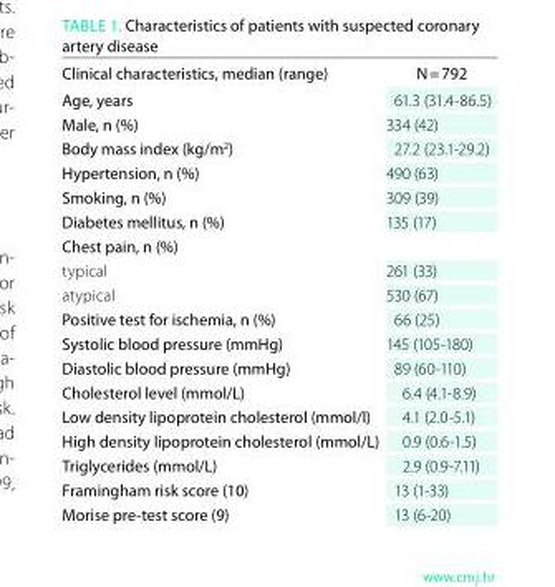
<table><thead><tr><td>Clinical characteristics, median (range)</td><td>n = 792</td></tr></thead><tbody><tr><td>age, years</td><td>61.3 (31.4-86.5)</td></tr><tr><td>Male, n (%)</td><td>334 (42)</td></tr><tr><td>Body mass index (kg/m<sup>2</sup>)</td><td>27.2 (23.1-29.2)</td></tr><tr><td>Hypertension, n (%)</td><td>490 (63)</td></tr><tr><td>smoking, n (%)</td><td>309 (39)</td></tr><tr><td>Diabetes mellitus, n (%)</td><td>135 (17)</td></tr><tr><td colspan="2">Chest pain, n (%)</td></tr><tr><td>typical</td><td>261 (33)</td></tr><tr><td>atypical</td><td>530 (67)</td></tr><tr><td>Positive test for ischemia, n (%)</td><td>66 (25)</td></tr><tr><td>systolic blood pressure (mmHg)</td><td>145 (105-180)</td></tr><tr><td>Diastolic blood pressure (mmHg)</td><td>89 (60-110)</td></tr><tr><td>Cholesterol level (mmol/L)</td><td>6.4 (4.1-8.9)</td></tr><tr><td>Low density lipoprotein cholesterol (mmol/l)</td><td>4.1 (2.0-5.1)</td></tr><tr><td>High density lipoprotein cholesterol (mmol/L)</td><td>0.9 (0.6-1.5)</td></tr><tr><td>triglycerides (mmol/L)</td><td>2.9 (0.9-7.11)</td></tr><tr><td>Framingham risk score (10)</td><td>13 (1-33)</td></tr><tr><td>Morise pre-test score (9)</td><td>13 (6-20)</td></tr></tbody></table>